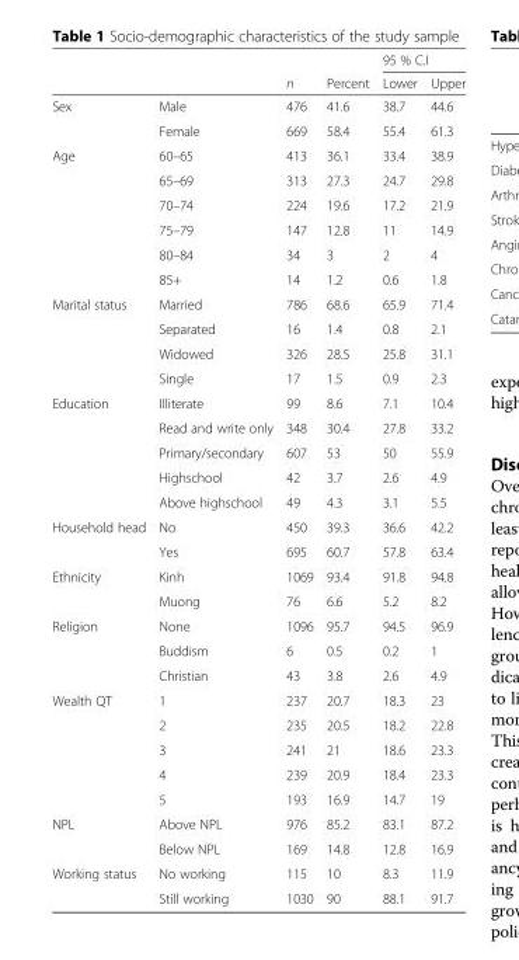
<table><thead><tr><td rowspan="2"></td><td rowspan="2"></td><td rowspan="2">n</td><td rowspan="2">Percent</td><td colspan="2">95 % C.I</td></tr><tr><td>Lower</td><td>Upper</td></tr></thead><tbody><tr><td rowspan="2">Sex</td><td>Male</td><td>476</td><td>41.6</td><td>38.7</td><td>44.6</td></tr><tr><td>Female</td><td>669</td><td>58.4</td><td>55.4</td><td>61.3</td></tr><tr><td rowspan="6">Age</td><td>60–65</td><td>413</td><td>36.1</td><td>33.4</td><td>38.9</td></tr><tr><td>65–69</td><td>313</td><td>27.3</td><td>24.7</td><td>29.8</td></tr><tr><td>70–74</td><td>224</td><td>19.6</td><td>17.2</td><td>21.9</td></tr><tr><td>75–79</td><td>147</td><td>12.8</td><td>11</td><td>14.9</td></tr><tr><td>80–84</td><td>34</td><td>3</td><td>2</td><td>4</td></tr><tr><td>85+</td><td>14</td><td>1.2</td><td>0.6</td><td>1.8</td></tr><tr><td rowspan="4">Marital status</td><td>Married</td><td>786</td><td>68.6</td><td>65.9</td><td>71.4</td></tr><tr><td>Separated</td><td>16</td><td>1.4</td><td>0.8</td><td>2.1</td></tr><tr><td>Widowed</td><td>326</td><td>28.5</td><td>25.8</td><td>31.1</td></tr><tr><td>Single</td><td>17</td><td>1.5</td><td>0.9</td><td>2.3</td></tr><tr><td rowspan="5">Education</td><td>Illiterate</td><td>99</td><td>8.6</td><td>7.1</td><td>10.4</td></tr><tr><td>Read and write only</td><td>348</td><td>30.4</td><td>27.8</td><td>33.2</td></tr><tr><td>Primary/secondary</td><td>607</td><td>53</td><td>50</td><td>55.9</td></tr><tr><td>Highschool</td><td>42</td><td>3.7</td><td>2.6</td><td>4.9</td></tr><tr><td>Above highschool</td><td>49</td><td>4.3</td><td>3.1</td><td>5.5</td></tr><tr><td rowspan="2">Household head</td><td>No</td><td>450</td><td>39.3</td><td>36.6</td><td>42.2</td></tr><tr><td>Yes</td><td>695</td><td>60.7</td><td>57.8</td><td>63.4</td></tr><tr><td rowspan="2">Ethnicity</td><td>Kinh</td><td>1069</td><td>93.4</td><td>91.8</td><td>94.8</td></tr><tr><td>Muong</td><td>76</td><td>6.6</td><td>5.2</td><td>8.2</td></tr><tr><td rowspan="3">Religion</td><td>None</td><td>1096</td><td>95.7</td><td>94.5</td><td>96.9</td></tr><tr><td>Buddism</td><td>6</td><td>0.5</td><td>0.2</td><td>1</td></tr><tr><td>Christian</td><td>43</td><td>3.8</td><td>2.6</td><td>4.9</td></tr><tr><td rowspan="5">Wealth QT</td><td>1</td><td>237</td><td>20.7</td><td>18.3</td><td>23</td></tr><tr><td>2</td><td>235</td><td>20.5</td><td>18.2</td><td>22.8</td></tr><tr><td>3</td><td>241</td><td>21</td><td>18.6</td><td>23.3</td></tr><tr><td>4</td><td>239</td><td>20.9</td><td>18.4</td><td>23.3</td></tr><tr><td>5</td><td>193</td><td>16.9</td><td>14.7</td><td>19</td></tr><tr><td rowspan="2">NPL</td><td>Above NPL</td><td>976</td><td>85.2</td><td>83.1</td><td>87.2</td></tr><tr><td>Below NPL</td><td>169</td><td>14.8</td><td>12.8</td><td>16.9</td></tr><tr><td rowspan="2">Working status</td><td>No working</td><td>115</td><td>10</td><td>8.3</td><td>11.9</td></tr><tr><td>Still working</td><td>1030</td><td>90</td><td>88.1</td><td>91.7</td></tr></tbody></table>